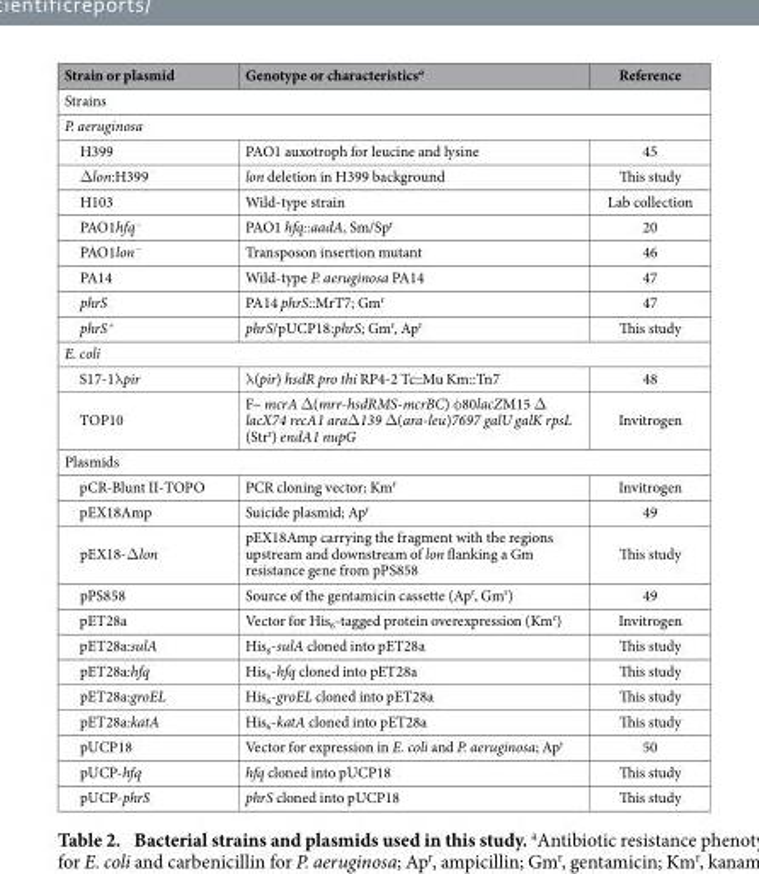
<table><thead><tr><td>Strain or plasmid</td><td>Genotype or characteristics<sup>a</sup></td><td>Reference</td></tr></thead><tbody><tr><td colspan="3">Strains</td></tr><tr><td colspan="3">P. aeruginosa</td></tr><tr><td>H399</td><td>PAO1 auxotroph for leucine and lysine</td><td>45</td></tr><tr><td>Δ lon:H399</td><td>lon deletion in H399 background</td><td>This study</td></tr><tr><td>H103</td><td>Wild-type strain</td><td>Lab collection</td></tr><tr><td>PAO1hfq<sup>−</sup></td><td>PAO1 hfq::aadA, Sm/Sp<sup>r</sup></td><td>20</td></tr><tr><td>PAO1lon<sup>−</sup></td><td>Transposon insertion mutant</td><td>46</td></tr><tr><td>PA14</td><td>Wild-type P. aeruginosa PA14</td><td>47</td></tr><tr><td>phrS</td><td>PA14 phrS::MrT7; Gm<sup>r</sup></td><td>47</td></tr><tr><td>phrS<sup>+</sup></td><td>phrS/pUCP18:phrS; Gm<sup>r</sup>, Ap<sup>r</sup></td><td>This study</td></tr><tr><td colspan="3">E. coli</td></tr><tr><td>S17-1λ pir</td><td>λ (pir) hsdR pro thi RP4-2 Tc::Mu Km::Tn7</td><td>48</td></tr><tr><td>TOP10</td><td>F– mcrA Δ (mrr-hsdRMS-mcrBC) φ 80lacZM15 Δ lacX74 recA1 araΔ 139 Δ (ara-leu)7697 galU galK rpsL (Str<sup>r</sup>) endA1 nupG</td><td>Invitrogen</td></tr><tr><td colspan="3">Plasmids</td></tr><tr><td>pCR-Blunt II-TOPO</td><td>PCR cloning vector; Km<sup>r</sup></td><td>Invitrogen</td></tr><tr><td>pEX18Amp</td><td>Suicide plasmid; Ap<sup>r</sup></td><td>49</td></tr><tr><td>pEX18-Δ lon</td><td>pEX18Amp carrying the fragment with the regions upstream and downstream of lon flanking a Gm resistance gene from pPS858</td><td>This study</td></tr><tr><td>pPS858</td><td>Source of the gentamicin cassette (Ap<sup>r</sup>, Gm<sup>r</sup>)</td><td>49</td></tr><tr><td>pET28a</td><td>Vector for His<sub>6</sub>-tagged protein overexpression (Km<sup>r</sup>)</td><td>Invitrogen</td></tr><tr><td>pET28a:sulA</td><td>His<sub>6</sub>-sulA cloned into pET28a</td><td>This study</td></tr><tr><td>pET28a:hfq</td><td>His<sub>6</sub>-hfq cloned into pET28a</td><td>This study</td></tr><tr><td>pET28a:groEL</td><td>His<sub>6</sub>-groEL cloned into pET28a</td><td>This study</td></tr><tr><td>pET28a:katA</td><td>His<sub>6</sub>-katA cloned into pET28a</td><td>This study</td></tr><tr><td>pUCP18</td><td>Vector for expression in E. coli and P. aeruginosa; Ap<sup>r</sup></td><td>50</td></tr><tr><td>pUCP-hfq</td><td>hfq cloned into pUCP18</td><td>This study</td></tr><tr><td>pUCP-phrS</td><td>phrS cloned into pUCP18</td><td>This study</td></tr></tbody></table>